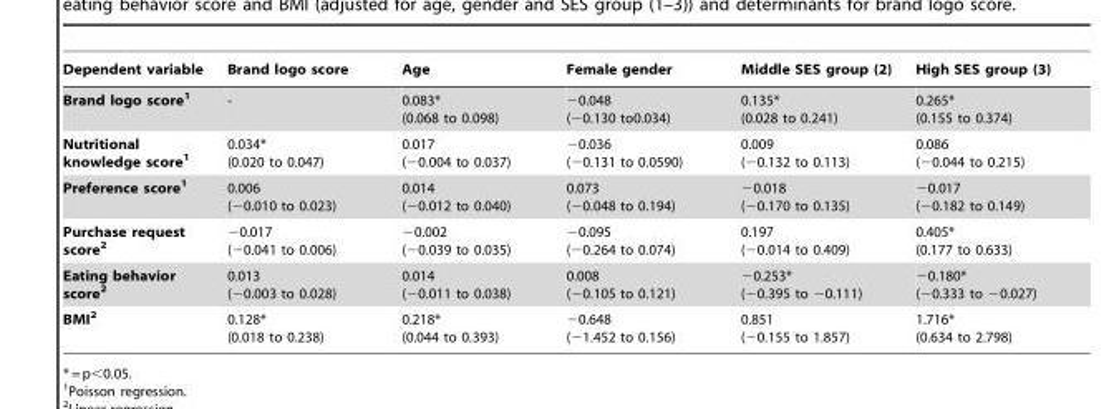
<table><thead><tr><td>Dependent variable</td><td>Brand logo score</td><td>Age</td><td>Female gender</td><td>Middle SES group (2)</td><td>High SES group (3)</td></tr></thead><tbody><tr><td>Brand logo score1</td><td>-</td><td>0.083* (0.068 to 0.098)</td><td>−0.048 (−0.130 to0.034)</td><td>0.135* (0.028 to 0.241)</td><td>0.265* (0.155 to 0.374)</td></tr><tr><td>Nutritional knowledge score1</td><td>0.034* (0.020 to 0.047)</td><td>0.017 (−0.004 to 0.037)</td><td>−0.036 (−0.131 to 0.0590)</td><td>0.009 (−0.132 to 0.113)</td><td>0.086 (−0.044 to 0.215)</td></tr><tr><td>Preference score1</td><td>0.006 (−0.010 to 0.023)</td><td>0.014 (−0.012 to 0.040)</td><td>0.073 (−0.048 to 0.194)</td><td>−0.018 (−0.170 to 0.135)</td><td>−0.017 (−0.182 to 0.149)</td></tr><tr><td>Purchase request score2</td><td>−0.017 (−0.041 to 0.006)</td><td>−0.002 (−0.039 to 0.035)</td><td>−0.095 (−0.264 to 0.074)</td><td>0.197 (−0.014 to 0.409)</td><td>0.405* (0.177 to 0.633)</td></tr><tr><td>Eating behavior score2</td><td>0.013 (−0.003 to 0.028)</td><td>0.014 (−0.011 to 0.038)</td><td>0.008 (−0.105 to 0.121)</td><td>−0.253* (−0.395 to −0.111)</td><td>−0.180* (−0.333 to −0.027)</td></tr><tr><td>BMI2</td><td>0.128* (0.018 to 0.238)</td><td>0.218* (0.044 to 0.393)</td><td>−0.648 (−1.452 to 0.156)</td><td>0.851 (−0.155 to 1.857)</td><td>1.716* (0.634 to 2.798)</td></tr></tbody></table>